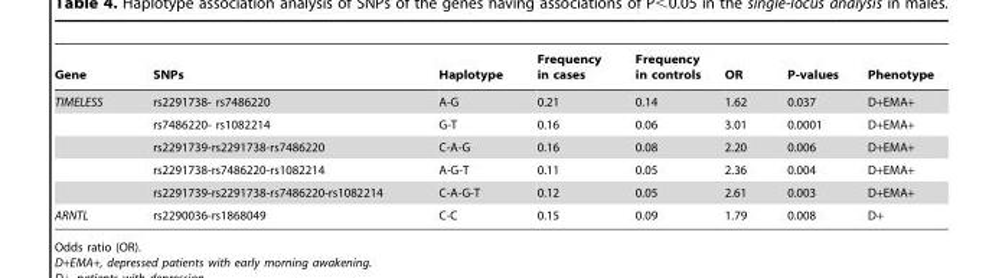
<table><thead><tr><td>Gene</td><td>SNPs</td><td>Haplotype</td><td>Frequency in cases</td><td>Frequency in controls</td><td>OR</td><td>P-values</td><td>Phenotype</td></tr></thead><tbody><tr><td rowspan="5">TIMELESS</td><td>rs2291738- rs7486220</td><td>A-G</td><td>0.21</td><td>0.14</td><td>1.62</td><td>0.037</td><td>D+EMA+</td></tr><tr><td>rs7486220- rs1082214</td><td>G-T</td><td>0.16</td><td>0.06</td><td>3.01</td><td>0.0001</td><td>D+EMA+</td></tr><tr><td>rs2291739-rs2291738-rs7486220</td><td>C-A-G</td><td>0.16</td><td>0.08</td><td>2.20</td><td>0.006</td><td>D+EMA+</td></tr><tr><td>rs2291738-rs7486220-rs1082214</td><td>A-G-T</td><td>0.11</td><td>0.05</td><td>2.36</td><td>0.004</td><td>D+EMA+</td></tr><tr><td>rs2291739-rs2291738-rs7486220-rs1082214</td><td>C-A-G-T</td><td>0.12</td><td>0.05</td><td>2.61</td><td>0.003</td><td>D+EMA+</td></tr><tr><td>ARNTL</td><td>rs2290036-rs1868049</td><td>C-C</td><td>0.15</td><td>0.09</td><td>1.79</td><td>0.008</td><td>D+</td></tr></tbody></table>